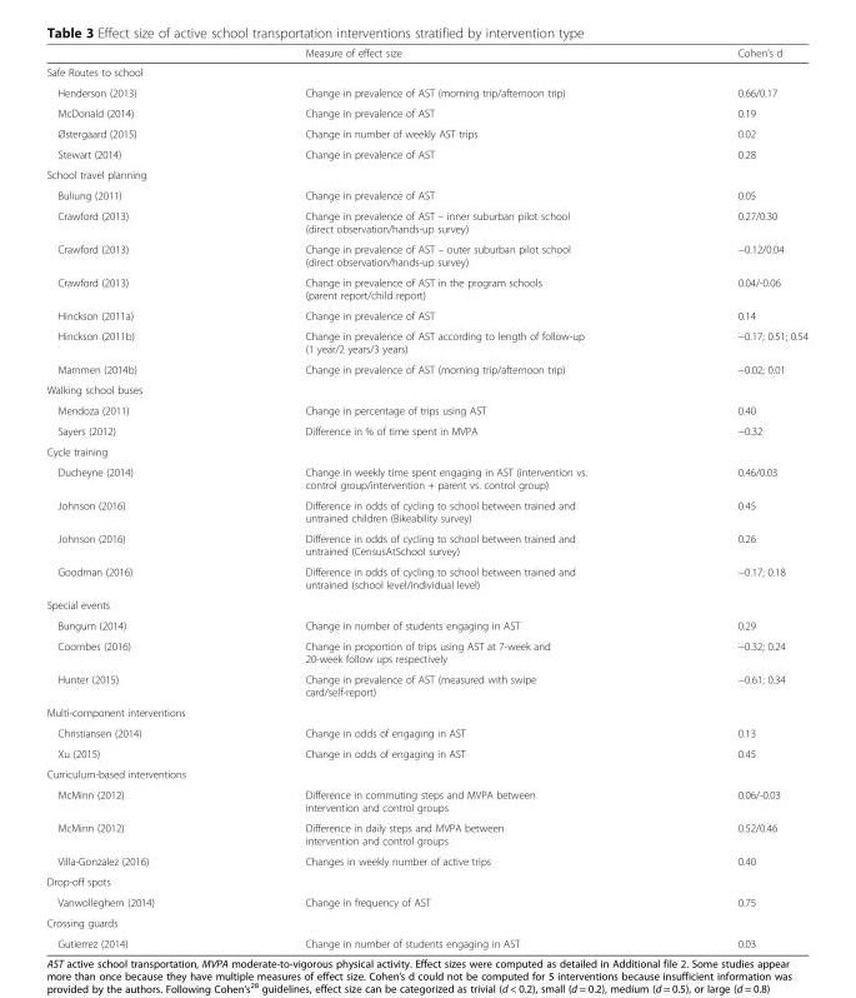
<table><thead><tr><td></td><td>Measure of effect size</td><td>Cohen’s d</td></tr></thead><tbody><tr><td colspan="3">Safe Routes to school</td></tr><tr><td>Henderson (2013)</td><td>Change in prevalence of AST (morning trip/afternoon trip)</td><td>0.66/0.17</td></tr><tr><td>McDonald (2014)</td><td>Change in prevalence of AST</td><td>0.19</td></tr><tr><td>Østergaard (2015)</td><td>Change in number of weekly AST trips</td><td>0.02</td></tr><tr><td>Stewart (2014)</td><td>Change in prevalence of AST</td><td>0.28</td></tr><tr><td colspan="3">School travel planning</td></tr><tr><td>Buliung (2011)</td><td>Change in prevalence of AST</td><td>0.05</td></tr><tr><td>Crawford (2013)</td><td>Change in prevalence of AST – inner suburban pilot school (direct observation/hands-up survey)</td><td>0.27/0.30</td></tr><tr><td>Crawford (2013)</td><td>Change in prevalence of AST – outer suburban pilot school (direct observation/hands-up survey)</td><td>−0.12/0.04</td></tr><tr><td>Crawford (2013)</td><td>Change in prevalence of AST in the program schools (parent report/child report)</td><td>0.04/-0.06</td></tr><tr><td>Hinckson (2011a)</td><td>Change in prevalence of AST</td><td>0.14</td></tr><tr><td>Hinckson (2011b)</td><td>Change in prevalence of AST according to length of follow-up (1 year/2 years/3 years)</td><td>−0.17; 0.51; 0.54</td></tr><tr><td>Mammen (2014b)</td><td>Change in prevalence of AST (morning trip/afternoon trip)</td><td>−0.02; 0.01</td></tr><tr><td colspan="3">Walking school buses</td></tr><tr><td>Mendoza (2011)</td><td>Change in percentage of trips using AST</td><td>0.40</td></tr><tr><td>Sayers (2012)</td><td>Difference in % of time spent in MVPA</td><td>−0.32</td></tr><tr><td colspan="3">Cycle training</td></tr><tr><td>Ducheyne (2014)</td><td>Change in weekly time spent engaging in AST (intervention vs. control group/intervention + parent vs. control group)</td><td>0.46/0.03</td></tr><tr><td>Johnson (2016)</td><td>Difference in odds of cycling to school between trained and untrained children (Bikeability survey)</td><td>0.45</td></tr><tr><td>Johnson (2016)</td><td>Difference in odds of cycling to school between trained and untrained (CensusAtSchool survey)</td><td>0.26</td></tr><tr><td>Goodman (2016)</td><td>Difference in odds of cycling to school between trained and untrained (school level/individual level)</td><td>−0.17; 0.18</td></tr><tr><td colspan="3">Special events</td></tr><tr><td>Bungum (2014)</td><td>Change in number of students engaging in AST</td><td>0.29</td></tr><tr><td>Coombes (2016)</td><td>Change in proportion of trips using AST at 7-week and 20-week follow ups respectively</td><td>−0.32; 0.24</td></tr><tr><td>Hunter (2015)</td><td>Change in prevalence of AST (measured with swipe card/self-report)</td><td>−0.61; 0.34</td></tr><tr><td colspan="3">Multi-component interventions</td></tr><tr><td>Christiansen (2014)</td><td>Change in odds of engaging in AST</td><td>0.13</td></tr><tr><td>Xu (2015)</td><td>Change in odds of engaging in AST</td><td>0.45</td></tr><tr><td colspan="3">Curriculum-based interventions</td></tr><tr><td>McMinn (2012)</td><td>Difference in commuting steps and MVPA between intervention and control groups</td><td>0.06/-0.03</td></tr><tr><td>McMinn (2012)</td><td>Difference in daily steps and MVPA between intervention and control groups</td><td>0.52/0.46</td></tr><tr><td>Villa-Gonzalez (2016)</td><td>Changes in weekly number of active trips</td><td>0.40</td></tr><tr><td colspan="3">Drop-off spots</td></tr><tr><td>Vanwolleghem (2014)</td><td>Change in frequency of AST</td><td>0.75</td></tr><tr><td colspan="3">Crossing guards</td></tr><tr><td>Gutierrez (2014)</td><td>Change in number of students engaging in AST</td><td>0.03</td></tr></tbody></table>